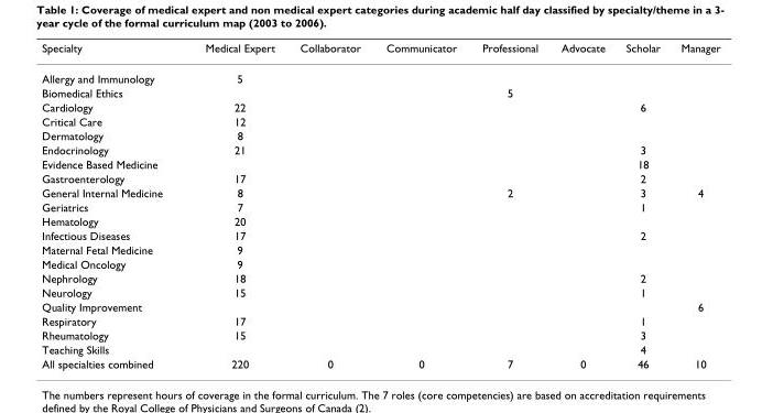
<table><thead><tr><td>Specialty</td><td>Medical Expert</td><td>Collaborator</td><td>Communicator</td><td>Professional</td><td>Advocate</td><td>Scholar</td><td>Manager</td></tr></thead><tbody><tr><td>Allergy and Immunology</td><td>5</td><td></td><td></td><td></td><td></td><td></td><td></td></tr><tr><td>Biomedical Ethics</td><td></td><td></td><td></td><td>5</td><td></td><td></td><td></td></tr><tr><td>Cardiology</td><td>22</td><td></td><td></td><td></td><td></td><td>6</td><td></td></tr><tr><td>Critical Care</td><td>12</td><td></td><td></td><td></td><td></td><td></td><td></td></tr><tr><td>Dermatology</td><td>8</td><td></td><td></td><td></td><td></td><td></td><td></td></tr><tr><td>Endocrinology</td><td>21</td><td></td><td></td><td></td><td></td><td>3</td><td></td></tr><tr><td>Evidence Based Medicine</td><td></td><td></td><td></td><td></td><td></td><td>18</td><td></td></tr><tr><td>Gastroenterology</td><td>17</td><td></td><td></td><td></td><td></td><td>2</td><td></td></tr><tr><td>General Internal Medicine</td><td>8</td><td></td><td></td><td>2</td><td></td><td>3</td><td>4</td></tr><tr><td>Geriatrics</td><td>7</td><td></td><td></td><td></td><td></td><td>1</td><td></td></tr><tr><td>Hematology</td><td>20</td><td></td><td></td><td></td><td></td><td></td><td></td></tr><tr><td>Infectious Diseases</td><td>17</td><td></td><td></td><td></td><td></td><td>2</td><td></td></tr><tr><td>Maternal Fetal Medicine</td><td>9</td><td></td><td></td><td></td><td></td><td></td><td></td></tr><tr><td>Medical Oncology</td><td>9</td><td></td><td></td><td></td><td></td><td></td><td></td></tr><tr><td>Nephrology</td><td>18</td><td></td><td></td><td></td><td></td><td>2</td><td></td></tr><tr><td>Neurology</td><td>15</td><td></td><td></td><td></td><td></td><td>1</td><td></td></tr><tr><td>Quality Improvement</td><td></td><td></td><td></td><td></td><td></td><td></td><td>6</td></tr><tr><td>Respiratory</td><td>17</td><td></td><td></td><td></td><td></td><td>1</td><td></td></tr><tr><td>Rheumatology</td><td>15</td><td></td><td></td><td></td><td></td><td>3</td><td></td></tr><tr><td>Teaching Skills</td><td></td><td></td><td></td><td></td><td></td><td>4</td><td></td></tr><tr><td>All specialties combined</td><td>220</td><td>0</td><td>0</td><td>7</td><td>0</td><td>46</td><td>10</td></tr></tbody></table>